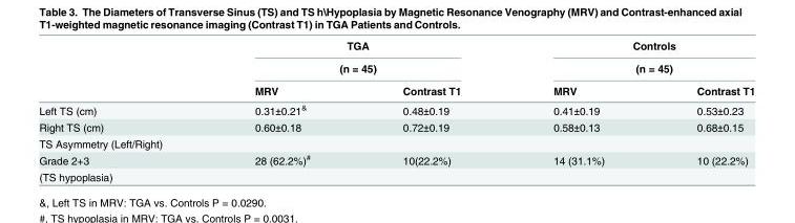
<table><thead><tr><td rowspan="3"></td><td rowspan="2" colspan="2">TGA (n = 45)</td><td rowspan="2" colspan="2">Controls (n = 45)</td></tr><tr></tr><tr><td>MRV</td><td>Contrast T1</td><td>MRV</td><td>Contrast T1</td></tr></thead><tbody><tr><td>Left TS (cm)</td><td>0.31±0.21<sup>&amp;</sup></td><td>0.48±0.19</td><td>0.41±0.19</td><td>0.53±0.23</td></tr><tr><td>Right TS (cm)</td><td>0.60±0.18</td><td>0.72±0.19</td><td>0.58±0.13</td><td>0.68±0.15</td></tr><tr><td colspan="5">TS Asymmetry (Left/Right)</td></tr><tr><td>Grade 2+3</td><td>28 (62.2%)<sup>#</sup></td><td>10(22.2%)</td><td>14 (31.1%)</td><td>10 (22.2%)</td></tr><tr><td>(TS hypoplasia)</td><td></td><td></td><td></td><td></td></tr></tbody></table>